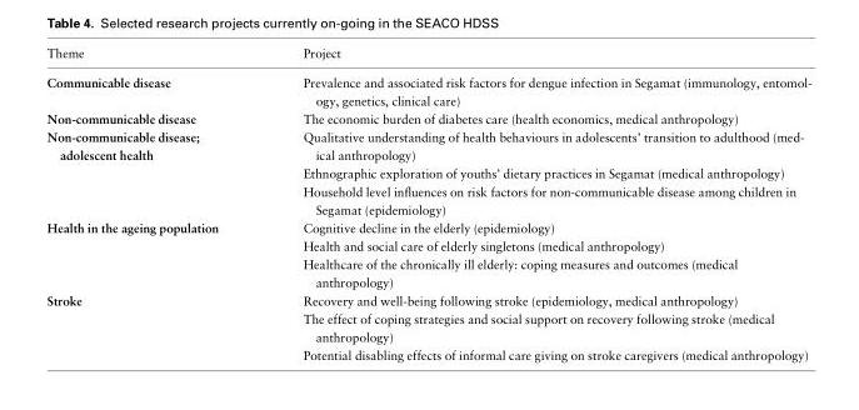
<table><thead><tr><td>Theme</td><td>Project</td></tr></thead><tbody><tr><td>Communicable disease</td><td>Prevalence and associated risk factors for dengue infection in Segamat (immunology, entomol- ogy, genetics, clinical care)</td></tr><tr><td>Non-communicable disease</td><td>The economic burden of diabetes care (health economics, medical anthropology)</td></tr><tr><td rowspan="3">Non-communicable disease; adolescent health</td><td>Qualitative understanding of health behaviours in adolescents’ transition to adulthood (med- ical anthropology)</td></tr><tr><td>Ethnographic exploration of youths’ dietary practices in Segamat (medical anthropology)</td></tr><tr><td>Household level influences on risk factors for non-communicable disease among children in Segamat (epidemiology)</td></tr><tr><td rowspan="3">Health in the ageing population</td><td>Cognitive decline in the elderly (epidemiology)</td></tr><tr><td>Health and social care of elderly singletons (medical anthropology)</td></tr><tr><td>Healthcare of the chronically ill elderly: coping measures and outcomes (medical anthropology)</td></tr><tr><td rowspan="3">Stroke</td><td>Recovery and well-being following stroke (epidemiology, medical anthropology)</td></tr><tr><td>The effect of coping strategies and social support on recovery following stroke (medical anthropology)</td></tr><tr><td>Potential disabling effects of informal care giving on stroke caregivers (medical anthropology)</td></tr></tbody></table>